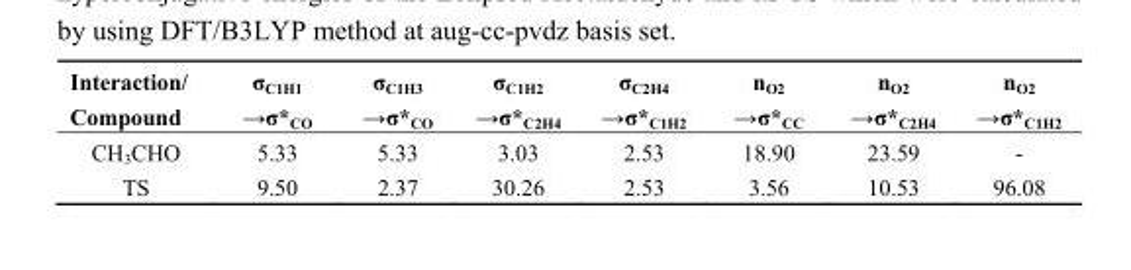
<table><thead><tr><td>Interaction/ Compound</td><td>σ<sub>C1H1</sub> →σ*<sub>CO</sub></td><td>σ<sub>C1H3</sub> →σ*<sub>CO</sub></td><td>σ<sub>C1H2</sub> →σ*<sub>C2H4</sub></td><td>σ<sub>C2H4</sub> →σ*<sub>C1H2</sub></td><td>n<sub>O2</sub> →σ*<sub>CC</sub></td><td>n<sub>O2</sub> →σ*<sub>C2H4</sub></td><td>n<sub>O2</sub> →σ*<sub>C1H2</sub></td></tr></thead><tbody><tr><td>CH<sub>3</sub>CHO</td><td>5.33</td><td>5.33</td><td>3.03</td><td>2.53</td><td>18.90</td><td>23.59</td><td>-</td></tr><tr><td>TS</td><td>9.50</td><td>2.37</td><td>30.26</td><td>2.53</td><td>3.56</td><td>10.53</td><td>96.08</td></tr></tbody></table>